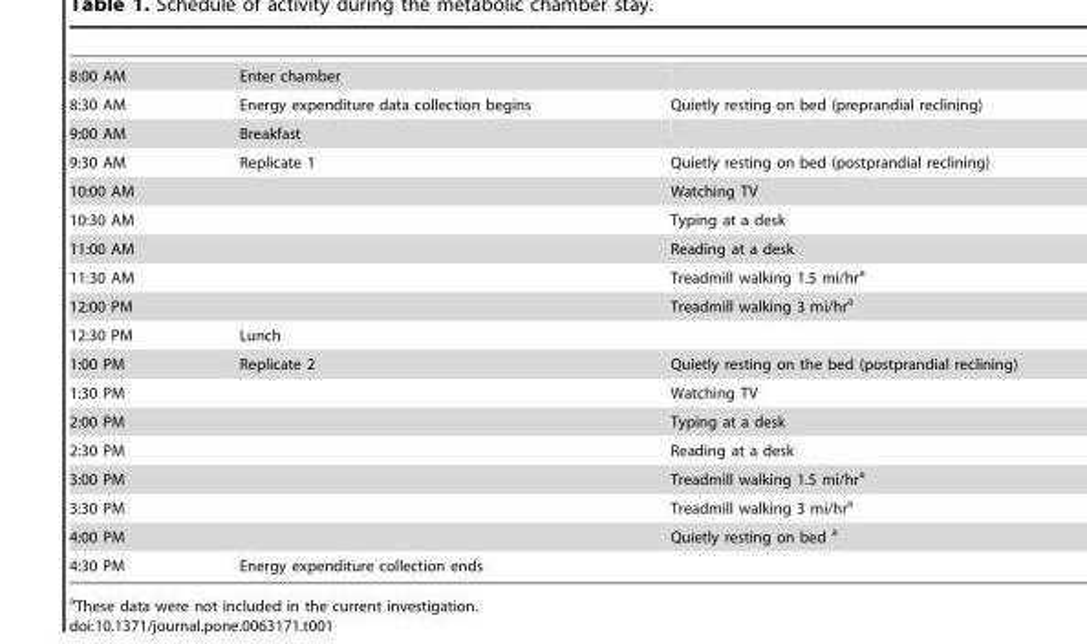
<table><tbody><tr><td>8:00 AM</td><td>Enter chamber</td><td></td></tr><tr><td>8:30 AM</td><td>Energy expenditure data collection begins</td><td>Quietly resting on bed (preprandial reclining)</td></tr><tr><td>9:00 AM</td><td>Breakfast</td><td></td></tr><tr><td>9:30 AM</td><td>Replicate 1</td><td>Quietly resting on bed (postprandial reclining)</td></tr><tr><td>10:00 AM</td><td></td><td>Watching TV</td></tr><tr><td>10:30 AM</td><td></td><td>Typing at a desk</td></tr><tr><td>11:00 AM</td><td></td><td>Reading at a desk</td></tr><tr><td>11:30 AM</td><td></td><td>Treadmill walking 1.5 mi/hr<sup>a</sup></td></tr><tr><td>12:00 PM</td><td></td><td>Treadmill walking 3 mi/hr<sup>a</sup></td></tr><tr><td>12:30 PM</td><td>Lunch</td><td></td></tr><tr><td>1:00 PM</td><td>Replicate 2</td><td>Quietly resting on the bed (postprandial reclining)</td></tr><tr><td>1:30 PM</td><td></td><td>Watching TV</td></tr><tr><td>2:00 PM</td><td></td><td>Typing at a desk</td></tr><tr><td>2:30 PM</td><td></td><td>Reading at a desk</td></tr><tr><td>3:00 PM</td><td></td><td>Treadmill walking 1.5 mi/hr<sup>a</sup></td></tr><tr><td>3:30 PM</td><td></td><td>Treadmill walking 3 mi/hr<sup>a</sup></td></tr><tr><td>4:00 PM</td><td></td><td>Quietly resting on bed a</td></tr><tr><td>4:30 PM</td><td>Energy expenditure collection ends</td><td></td></tr></tbody></table>